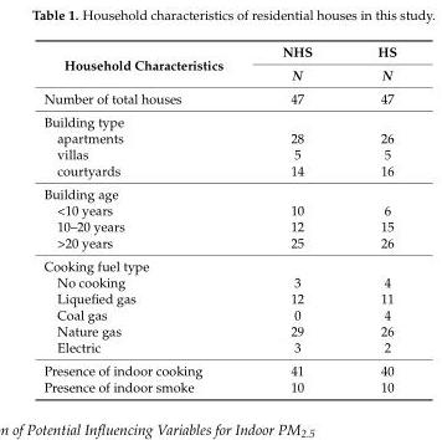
<table><thead><tr><td rowspan="2">Household Characteristics</td><td rowspan="2">NHS N</td><td rowspan="2">HS N</td></tr><tr></tr></thead><tbody><tr><td>Number of total houses</td><td>47</td><td>47</td></tr><tr><td colspan="3">Building type</td></tr><tr><td>apartments</td><td>28</td><td>26</td></tr><tr><td>villas</td><td>5</td><td>5</td></tr><tr><td>courtyards</td><td>14</td><td>16</td></tr><tr><td colspan="3">Building age</td></tr><tr><td>&lt;10 years</td><td>10</td><td>6</td></tr><tr><td>10–20 years</td><td>12</td><td>15</td></tr><tr><td>&gt;20 years</td><td>25</td><td>26</td></tr><tr><td colspan="3">Cooking fuel type</td></tr><tr><td>No cooking</td><td>3</td><td>4</td></tr><tr><td>Liquefied gas</td><td>12</td><td>11</td></tr><tr><td>Coal gas</td><td>0</td><td>4</td></tr><tr><td>Nature gas</td><td>29</td><td>26</td></tr><tr><td>Electric</td><td>3</td><td>2</td></tr><tr><td>Presence of indoor cooking</td><td>41</td><td>40</td></tr><tr><td>Presence of indoor smoke</td><td>10</td><td>10</td></tr></tbody></table>